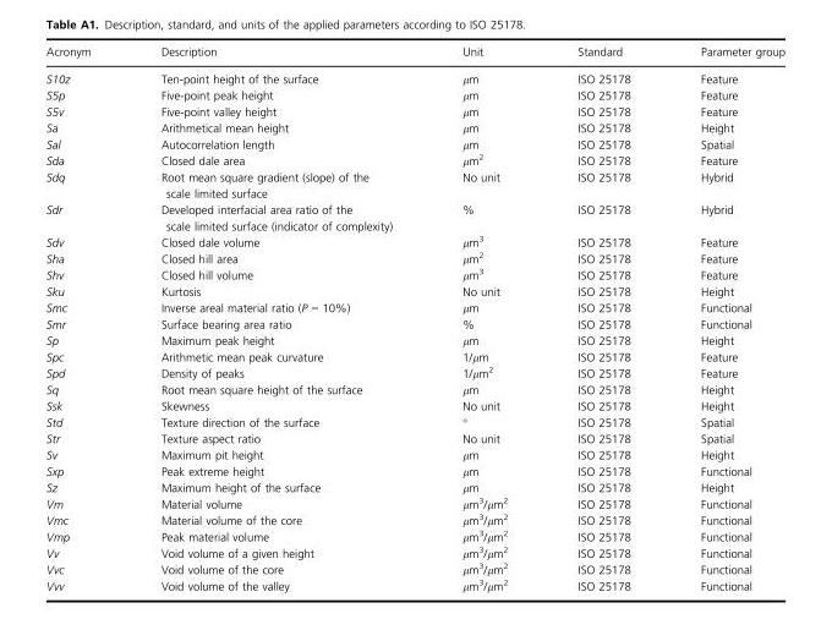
<table><thead><tr><td>Acronym</td><td>Description</td><td>Unit</td><td>Standard</td><td>Parameter group</td></tr></thead><tbody><tr><td>S10z</td><td>Ten-point height of the surface</td><td>μm</td><td>ISO 25178</td><td>Feature</td></tr><tr><td>S5p</td><td>Five-point peak height</td><td>μm</td><td>ISO 25178</td><td>Feature</td></tr><tr><td>S5v</td><td>Five-point valley height</td><td>μm</td><td>ISO 25178</td><td>Feature</td></tr><tr><td>Sa</td><td>Arithmetical mean height</td><td>μm</td><td>ISO 25178</td><td>Height</td></tr><tr><td>Sal</td><td>Autocorrelation length</td><td>μm</td><td>ISO 25178</td><td>Spatial</td></tr><tr><td>Sda</td><td>Closed dale area</td><td>μm<sup>2</sup></td><td>ISO 25178</td><td>Feature</td></tr><tr><td>Sdq</td><td>Root mean square gradient (slope) of the scale limited surface</td><td>No unit</td><td>ISO 25178</td><td>Hybrid</td></tr><tr><td>Sdr</td><td>Developed interfacial area ratio of the scale limited surface (indicator of complexity)</td><td>%</td><td>ISO 25178</td><td>Hybrid</td></tr><tr><td>Sdv</td><td>Closed dale volume</td><td>μm<sup>3</sup></td><td>ISO 25178</td><td>Feature</td></tr><tr><td>Sha</td><td>Closed hill area</td><td>μm<sup>2</sup></td><td>ISO 25178</td><td>Feature</td></tr><tr><td>Shv</td><td>Closed hill volume</td><td>μm<sup>3</sup></td><td>ISO 25178</td><td>Feature</td></tr><tr><td>Sku</td><td>Kurtosis</td><td>No unit</td><td>ISO 25178</td><td>Height</td></tr><tr><td>Smc</td><td>Inverse areal material ratio (P = 10%)</td><td>μm</td><td>ISO 25178</td><td>Functional</td></tr><tr><td>Smr</td><td>Surface bearing area ratio</td><td>%</td><td>ISO 25178</td><td>Functional</td></tr><tr><td>Sp</td><td>Maximum peak height</td><td>μm</td><td>ISO 25178</td><td>Height</td></tr><tr><td>Spc</td><td>Arithmetic mean peak curvature</td><td>1/μm</td><td>ISO 25178</td><td>Feature</td></tr><tr><td>Spd</td><td>Density of peaks</td><td>1/μm<sup>2</sup></td><td>ISO 25178</td><td>Feature</td></tr><tr><td>Sq</td><td>Root mean square height of the surface</td><td>μm</td><td>ISO 25178</td><td>Height</td></tr><tr><td>Ssk</td><td>Skewness</td><td>No unit</td><td>ISO 25178</td><td>Height</td></tr><tr><td>Std</td><td>Texture direction of the surface</td><td>°</td><td>ISO 25178</td><td>Spatial</td></tr><tr><td>Str</td><td>Texture aspect ratio</td><td>No unit</td><td>ISO 25178</td><td>Spatial</td></tr><tr><td>Sv</td><td>Maximum pit height</td><td>μm</td><td>ISO 25178</td><td>Height</td></tr><tr><td>Sxp</td><td>Peak extreme height</td><td>μm</td><td>ISO 25178</td><td>Functional</td></tr><tr><td>Sz</td><td>Maximum height of the surface</td><td>μm</td><td>ISO 25178</td><td>Height</td></tr><tr><td>Vm</td><td>Material volume</td><td>μm<sup>3</sup>/μm<sup>2</sup></td><td>ISO 25178</td><td>Functional</td></tr><tr><td>Vmc</td><td>Material volume of the core</td><td>μm<sup>3</sup>/μm<sup>2</sup></td><td>ISO 25178</td><td>Functional</td></tr><tr><td>Vmp</td><td>Peak material volume</td><td>μm<sup>3</sup>/μm<sup>2</sup></td><td>ISO 25178</td><td>Functional</td></tr><tr><td>Vv</td><td>Void volume of a given height</td><td>μm<sup>3</sup>/μm<sup>2</sup></td><td>ISO 25178</td><td>Functional</td></tr><tr><td>Vvc</td><td>Void volume of the core</td><td>μm<sup>3</sup>/μm<sup>2</sup></td><td>ISO 25178</td><td>Functional</td></tr><tr><td>Vvv</td><td>Void volume of the valley</td><td>μm<sup>3</sup>/μm<sup>2</sup></td><td>ISO 25178</td><td>Functional</td></tr></tbody></table>